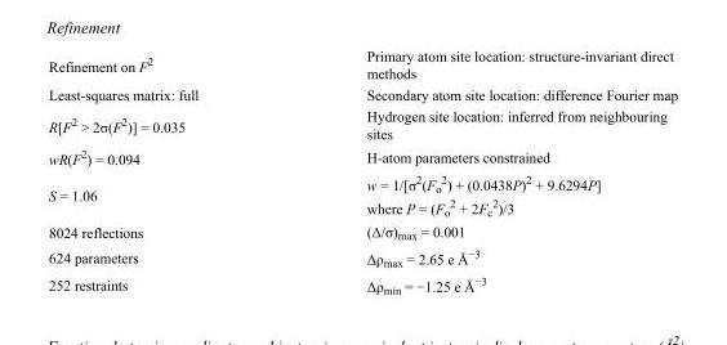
<table><tbody><tr><td>Refinement on F<sup>2</sup></td><td>Primary atom site location: structure-invariant direct methods</td></tr><tr><td>Least-squares matrix: full</td><td>Secondary atom site location: difference Fourier map</td></tr><tr><td>R[F<sup>2</sup> &gt; 2σ(F<sup>2</sup>)] = 0.035</td><td>Hydrogen site location: inferred from neighbouring sites</td></tr><tr><td>wR(F<sup>2</sup>) = 0.094</td><td>H-atom parameters constrained</td></tr><tr><td>S = 1.06</td><td>w = 1/[σ<sup>2</sup>(F<sub>o</sub> <sup>2</sup>) + (0.0438P)<sup>2</sup> + 9.6294P] where P = (F<sub>o</sub> <sup>2</sup> + 2F<sub>c</sub> <sup>2</sup>)/3</td></tr><tr><td>8024 reflections</td><td>(Δ/σ)<sub>max</sub> = 0.001</td></tr><tr><td>624 parameters</td><td>Δρ<sub>max</sub> = 2.65 e Å<sup>−3</sup></td></tr><tr><td>252 restraints</td><td>Δρ<sub>min</sub> = −1.25 e Å<sup>−3</sup></td></tr></tbody></table>